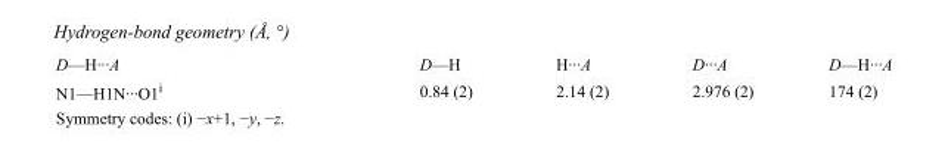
<table><tbody><tr><td>D—H···A</td><td>D—H</td><td>H···A</td><td>D···A</td><td>D—H···A</td></tr><tr><td>N1—H1N···O1<sup>i</sup></td><td>0.84 (2)</td><td>2.14 (2)</td><td>2.976 (2)</td><td>174 (2)</td></tr></tbody></table>